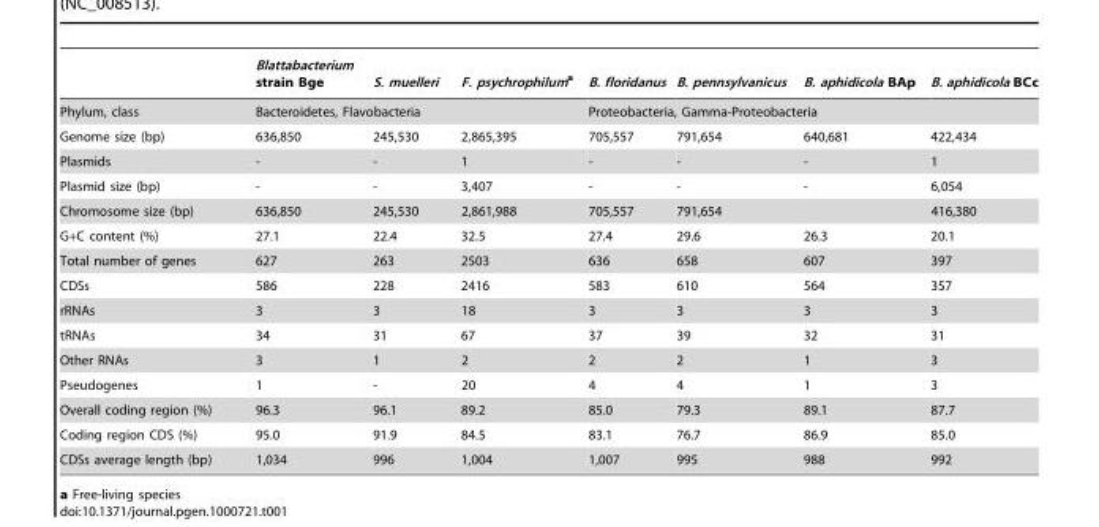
<table><thead><tr><td></td><td>Blattabacterium strain Bge</td><td>S. muelleri</td><td>F. psychrophiluma</td><td>B. floridanus</td><td>B. pennsylvanicus</td><td>B. aphidicola BAp</td><td>B. aphidicola BCc</td></tr></thead><tbody><tr><td>Phylum, class</td><td colspan="3">Bacteroidetes, Flavobacteria</td><td colspan="4">Proteobacteria, Gamma-Proteobacteria</td></tr><tr><td>Genome size (bp)</td><td>636,850</td><td>245,530</td><td>2,865,395</td><td>705,557</td><td>791,654</td><td>640,681</td><td>422,434</td></tr><tr><td>Plasmids</td><td>-</td><td>-</td><td>1</td><td>-</td><td>-</td><td>-</td><td>1</td></tr><tr><td>Plasmid size (bp)</td><td>-</td><td>-</td><td>3,407</td><td>-</td><td>-</td><td>-</td><td>6,054</td></tr><tr><td>Chromosome size (bp)</td><td>636,850</td><td>245,530</td><td>2,861,988</td><td>705,557</td><td>791,654</td><td></td><td>416,380</td></tr><tr><td>G+C content (%)</td><td>27.1</td><td>22.4</td><td>32.5</td><td>27.4</td><td>29.6</td><td>26.3</td><td>20.1</td></tr><tr><td>Total number of genes</td><td>627</td><td>263</td><td>2503</td><td>636</td><td>658</td><td>607</td><td>397</td></tr><tr><td>CDSs</td><td>586</td><td>228</td><td>2416</td><td>583</td><td>610</td><td>564</td><td>357</td></tr><tr><td>rRNAs</td><td>3</td><td>3</td><td>18</td><td>3</td><td>3</td><td>3</td><td>3</td></tr><tr><td>tRNAs</td><td>34</td><td>31</td><td>67</td><td>37</td><td>39</td><td>32</td><td>31</td></tr><tr><td>Other RNAs</td><td>3</td><td>1</td><td>2</td><td>2</td><td>2</td><td>1</td><td>3</td></tr><tr><td>Pseudogenes</td><td>1</td><td>-</td><td>20</td><td>4</td><td>4</td><td>1</td><td>3</td></tr><tr><td>Overall coding region (%)</td><td>96.3</td><td>96.1</td><td>89.2</td><td>85.0</td><td>79.3</td><td>89.1</td><td>87.7</td></tr><tr><td>Coding region CDS (%)</td><td>95.0</td><td>91.9</td><td>84.5</td><td>83.1</td><td>76.7</td><td>86.9</td><td>85.0</td></tr><tr><td>CDSs average length (bp)</td><td>1,034</td><td>996</td><td>1,004</td><td>1,007</td><td>995</td><td>988</td><td>992</td></tr></tbody></table>